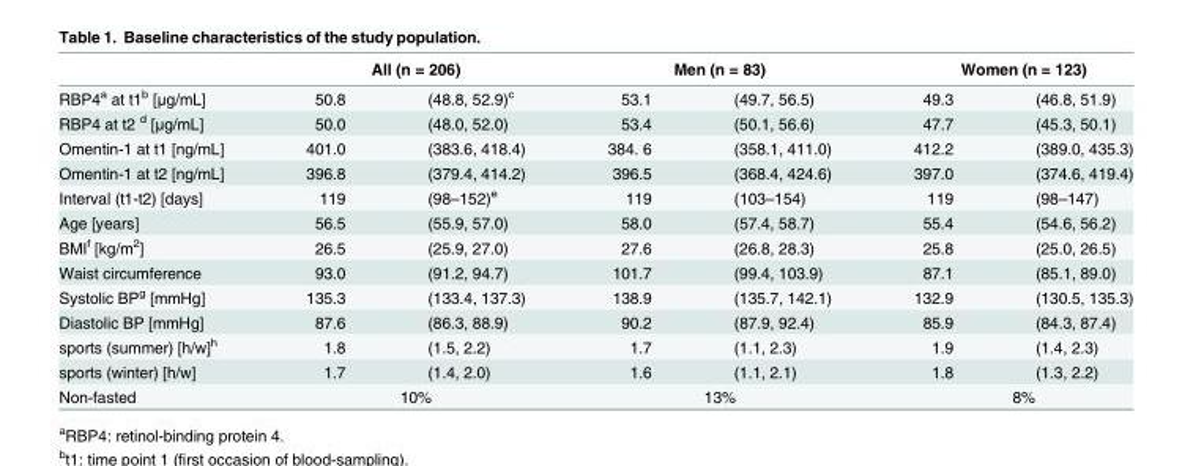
<table><thead><tr><td rowspan="2">RBP4<sup>a</sup> at t1<sup>b</sup> [μg/mL]</td><td colspan="2">All (n = 206)</td><td colspan="2">Men (n = 83)</td><td colspan="2">Women (n = 123)</td></tr><tr><td>50.8</td><td>(48.8, 52.9)<sup>c</sup></td><td>53.1</td><td>(49.7, 56.5)</td><td>49.3</td><td>(46.8, 51.9)</td></tr></thead><tbody><tr><td>RBP4 at t2 <sup>d</sup> [μg/mL]</td><td>50.0</td><td>(48.0, 52.0)</td><td>53.4</td><td>(50.1, 56.6)</td><td>47.7</td><td>(45.3, 50.1)</td></tr><tr><td>Omentin-1 at t1 [ng/mL]</td><td>401.0</td><td>(383.6, 418.4)</td><td>384. 6</td><td>(358.1, 411.0)</td><td>412.2</td><td>(389.0, 435.3)</td></tr><tr><td>Omentin-1 at t2 [ng/mL]</td><td>396.8</td><td>(379.4, 414.2)</td><td>396.5</td><td>(368.4, 424.6)</td><td>397.0</td><td>(374.6, 419.4)</td></tr><tr><td>Interval (t1-t2) [days]</td><td>119</td><td>(98–152)<sup>e</sup></td><td>119</td><td>(103–154)</td><td>119</td><td>(98–147)</td></tr><tr><td>Age [years]</td><td>56.5</td><td>(55.9, 57.0)</td><td>58.0</td><td>(57.4, 58.7)</td><td>55.4</td><td>(54.6, 56.2)</td></tr><tr><td>BMI<sup>f</sup> [kg/m<sup>2</sup>]</td><td>26.5</td><td>(25.9, 27.0)</td><td>27.6</td><td>(26.8, 28.3)</td><td>25.8</td><td>(25.0, 26.5)</td></tr><tr><td>Waist circumference</td><td>93.0</td><td>(91.2, 94.7)</td><td>101.7</td><td>(99.4, 103.9)</td><td>87.1</td><td>(85.1, 89.0)</td></tr><tr><td>Systolic BP<sup>g</sup> [mmHg]</td><td>135.3</td><td>(133.4, 137.3)</td><td>138.9</td><td>(135.7, 142.1)</td><td>132.9</td><td>(130.5, 135.3)</td></tr><tr><td>Diastolic BP [mmHg]</td><td>87.6</td><td>(86.3, 88.9)</td><td>90.2</td><td>(87.9, 92.4)</td><td>85.9</td><td>(84.3, 87.4)</td></tr><tr><td>sports (summer) [h/w]<sup>h</sup></td><td>1.8</td><td>(1.5, 2.2)</td><td>1.7</td><td>(1.1, 2.3)</td><td>1.9</td><td>(1.4, 2.3)</td></tr><tr><td>sports (winter) [h/w]</td><td>1.7</td><td>(1.4, 2.0)</td><td>1.6</td><td>(1.1, 2.1)</td><td>1.8</td><td>(1.3, 2.2)</td></tr><tr><td>Non-fasted</td><td colspan="2">10%</td><td colspan="2">13%</td><td colspan="2">8%</td></tr></tbody></table>